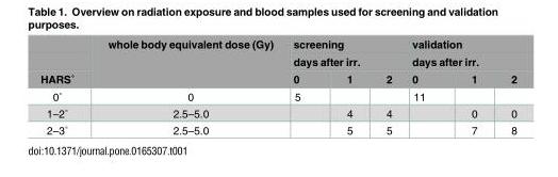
<table><thead><tr><td rowspan="3">HARS˚</td><td rowspan="3">whole body equivalent dose (Gy)</td><td rowspan="2" colspan="3">screening days after irr.</td><td rowspan="2" colspan="3">validation days after irr.</td></tr><tr></tr><tr><td>0</td><td>1</td><td>2</td><td>0</td><td>1</td><td>2</td></tr></thead><tbody><tr><td>0˚</td><td>0</td><td>5</td><td></td><td></td><td>11</td><td></td><td></td></tr><tr><td>1–2˚</td><td>2.5–5.0</td><td></td><td>4</td><td>4</td><td></td><td>0</td><td>0</td></tr><tr><td>2–3˚</td><td>2.5–5.0</td><td></td><td>5</td><td>5</td><td></td><td>7</td><td>8</td></tr></tbody></table>